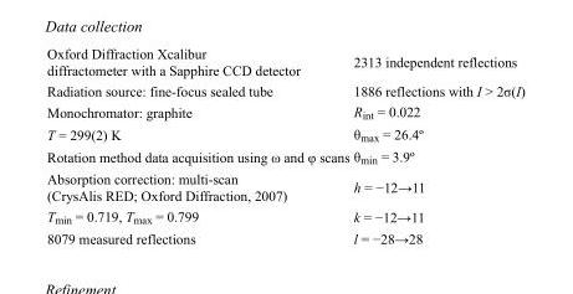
<table><tbody><tr><td>Oxford Diffraction Xcalibur diffractometer with a Sapphire CCD detector</td><td>2313 independent reflections</td></tr><tr><td>Radiation source: fine-focus sealed tube</td><td>1886 reflections with I &gt; 2σ(I)</td></tr><tr><td>Monochromator: graphite</td><td>R<sub>int</sub> = 0.022</td></tr><tr><td>T = 299(2) K</td><td>θ<sub>max</sub> = 26.4º</td></tr><tr><td>Rotation method data acquisition using ω and φ scans</td><td>θ<sub>min</sub> = 3.9º</td></tr><tr><td>Absorption correction: multi-scan (CrysAlis RED; Oxford Diffraction, 2007)</td><td>h = −12→11</td></tr><tr><td>T<sub>min</sub> = 0.719, T<sub>max</sub> = 0.799</td><td>k = −12→11</td></tr><tr><td>8079 measured reflections</td><td>l = −28→28</td></tr></tbody></table>